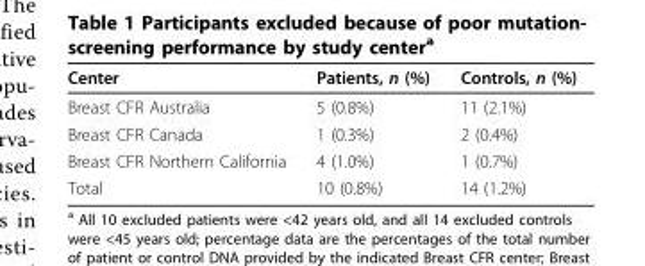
<table><thead><tr><td>Center</td><td>Patients, n (%)</td><td>Controls, n (%)</td></tr></thead><tbody><tr><td>Breast CFR Australia</td><td>5 (0.8%)</td><td>11 (2.1%)</td></tr><tr><td>Breast CFR Canada</td><td>1 (0.3%)</td><td>2 (0.4%)</td></tr><tr><td>Breast CFR Northern California</td><td>4 (1.0%)</td><td>1 (0.7%)</td></tr><tr><td>Total</td><td>10 (0.8%)</td><td>14 (1.2%)</td></tr></tbody></table>